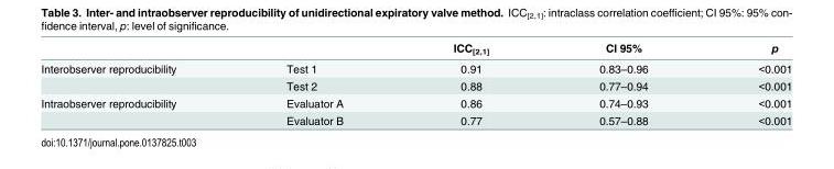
<table><thead><tr><td></td><td></td><td>ICC<sub>[2,1]</sub></td><td>CI 95%</td><td>p</td></tr></thead><tbody><tr><td rowspan="2">Interobserver reproducibility</td><td>Test 1</td><td>0.91</td><td>0.83–0.96</td><td>&lt;0.001</td></tr><tr><td>Test 2</td><td>0.88</td><td>0.77–0.94</td><td>&lt;0.001</td></tr><tr><td rowspan="2">Intraobserver reproducibility</td><td>Evaluator A</td><td>0.86</td><td>0.74–0.93</td><td>&lt;0.001</td></tr><tr><td>Evaluator B</td><td>0.77</td><td>0.57–0.88</td><td>&lt;0.001</td></tr></tbody></table>